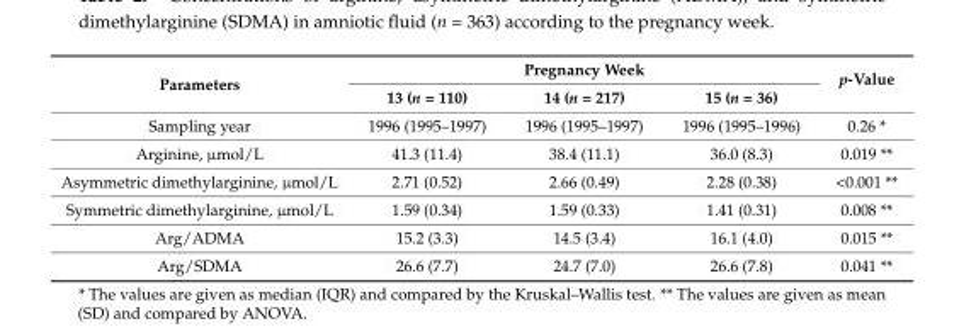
<table><thead><tr><td rowspan="2">Parameters</td><td colspan="3">Pregnancy Week</td><td rowspan="2">p-Value</td></tr><tr><td>13 (n = 110)</td><td>14 (n = 217)</td><td>15 (n = 36)</td></tr></thead><tbody><tr><td>Sampling year</td><td>1996 (1995–1997)</td><td>1996 (1995–1997)</td><td>1996 (1995–1996)</td><td>0.26 *</td></tr><tr><td>Arginine, µmol/L</td><td>41.3 (11.4)</td><td>38.4 (11.1)</td><td>36.0 (8.3)</td><td>0.019 **</td></tr><tr><td>Asymmetric dimethylarginine, µmol/L</td><td>2.71 (0.52)</td><td>2.66 (0.49)</td><td>2.28 (0.38)</td><td>&lt;0.001 **</td></tr><tr><td>Symmetric dimethylarginine, µmol/L</td><td>1.59 (0.34)</td><td>1.59 (0.33)</td><td>1.41 (0.31)</td><td>0.008 **</td></tr><tr><td>Arg/ADMA</td><td>15.2 (3.3)</td><td>14.5 (3.4)</td><td>16.1 (4.0)</td><td>0.015 **</td></tr><tr><td>Arg/SDMA</td><td>26.6 (7.7)</td><td>24.7 (7.0)</td><td>26.6 (7.8)</td><td>0.041 **</td></tr></tbody></table>